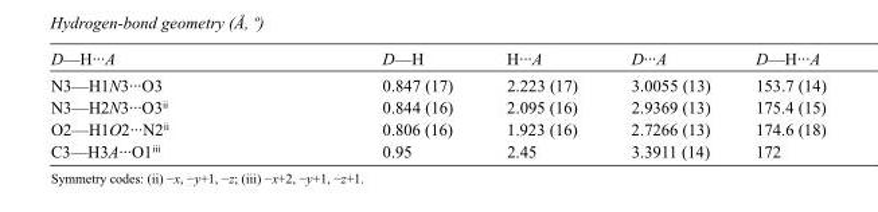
<table><tbody><tr><td>D—H···A</td><td>D—H</td><td>H···A</td><td>D···A</td><td>D—H···A</td></tr><tr><td>N3—H1N3···O3</td><td>0.847 (17)</td><td>2.223 (17)</td><td>3.0055 (13)</td><td>153.7 (14)</td></tr><tr><td>N3—H2N3···O3<sup>ii</sup></td><td>0.844 (16)</td><td>2.095 (16)</td><td>2.9369 (13)</td><td>175.4 (15)</td></tr><tr><td>O2—H1O2···N2<sup>ii</sup></td><td>0.806 (16)</td><td>1.923 (16)</td><td>2.7266 (13)</td><td>174.6 (18)</td></tr><tr><td>C3—H3A···O1<sup>iii</sup></td><td>0.95</td><td>2.45</td><td>3.3911 (14)</td><td>172</td></tr></tbody></table>